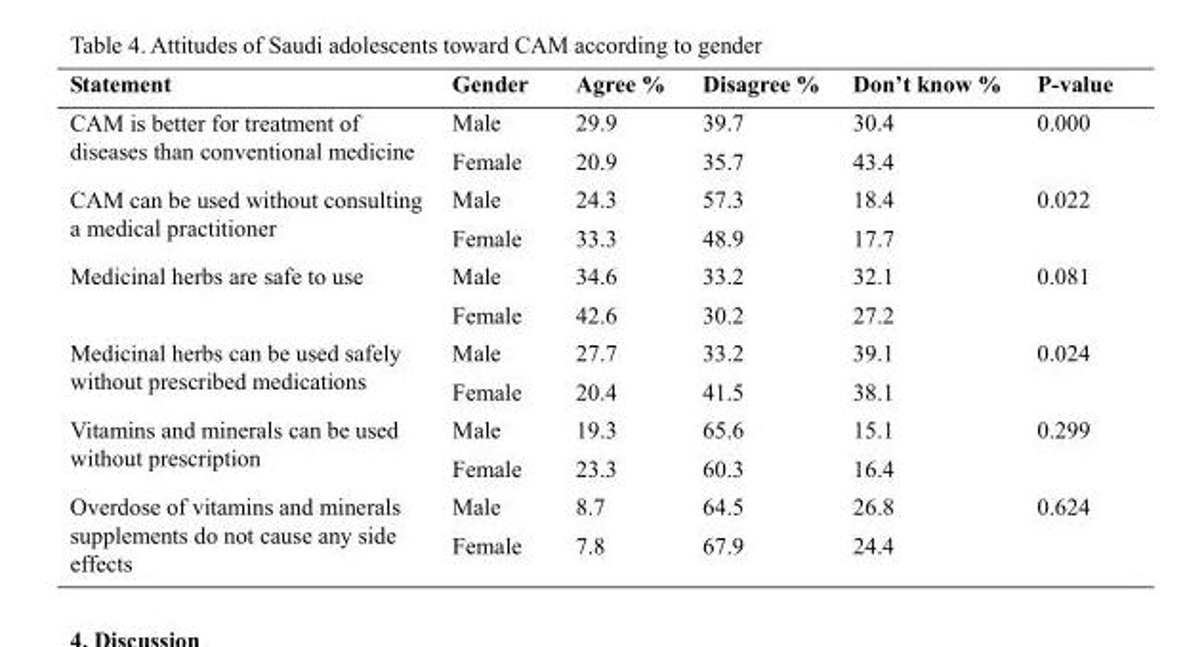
<table><thead><tr><td>Statement</td><td>Gender</td><td>Agree %</td><td>Disagree %</td><td>Don’t know %</td><td>P-value</td></tr></thead><tbody><tr><td rowspan="2">CAM is better for treatment of diseases than conventional medicine</td><td>Male</td><td>29.9</td><td>39.7</td><td>30.4</td><td rowspan="2">0.000</td></tr><tr><td>Female</td><td>20.9</td><td>35.7</td><td>43.4</td></tr><tr><td rowspan="2">CAM can be used without consulting a medical practitioner</td><td>Male</td><td>24.3</td><td>57.3</td><td>18.4</td><td rowspan="2">0.022</td></tr><tr><td>Female</td><td>33.3</td><td>48.9</td><td>17.7</td></tr><tr><td rowspan="2">Medicinal herbs are safe to use</td><td>Male</td><td>34.6</td><td>33.2</td><td>32.1</td><td rowspan="2">0.081</td></tr><tr><td>Female</td><td>42.6</td><td>30.2</td><td>27.2</td></tr><tr><td rowspan="2">Medicinal herbs can be used safely without prescribed medications</td><td>Male</td><td>27.7</td><td>33.2</td><td>39.1</td><td rowspan="2">0.024</td></tr><tr><td>Female</td><td>20.4</td><td>41.5</td><td>38.1</td></tr><tr><td rowspan="2">Vitamins and minerals can be used without prescription</td><td>Male</td><td>19.3</td><td>65.6</td><td>15.1</td><td rowspan="2">0.299</td></tr><tr><td>Female</td><td>23.3</td><td>60.3</td><td>16.4</td></tr><tr><td rowspan="2">Overdose of vitamins and minerals supplements do not cause any side effects</td><td>Male</td><td>8.7</td><td>64.5</td><td>26.8</td><td rowspan="2">0.624</td></tr><tr><td>Female</td><td>7.8</td><td>67.9</td><td>24.4</td></tr></tbody></table>